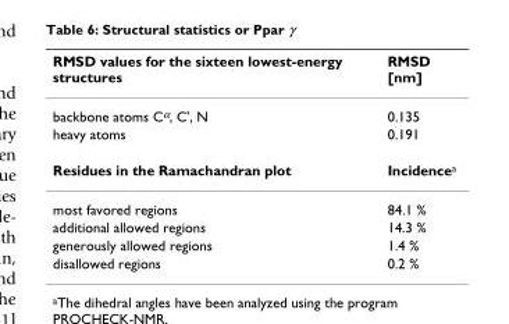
<table><thead><tr><td>RMSD values for the sixteen lowest-energy structures</td><td>RMSD [nm]</td></tr></thead><tbody><tr><td>backbone atoms Cα, C&#x27;, N</td><td>0.135</td></tr><tr><td>heavy atoms</td><td>0.191</td></tr><tr><td>Residues in the Ramachandran plot</td><td>Incidencea</td></tr><tr><td>most favored regions</td><td>84.1 %</td></tr><tr><td>additional allowed regions</td><td>14.3 %</td></tr><tr><td>generously allowed regions</td><td>1.4 %</td></tr><tr><td>disallowed regions</td><td>0.2 %</td></tr></tbody></table>